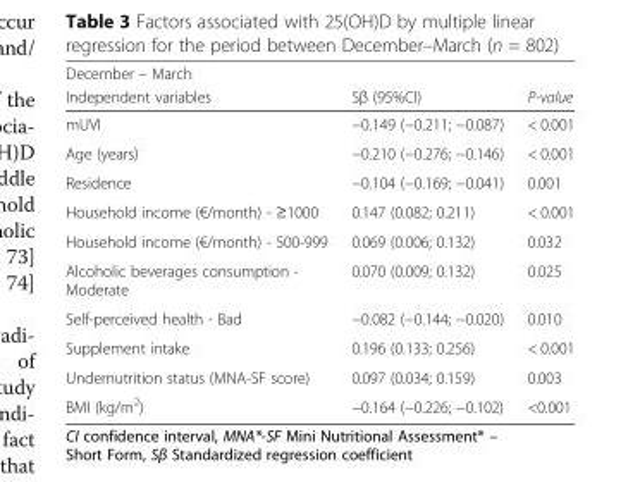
<table><thead><tr><td colspan="3">December – March</td></tr><tr><td>Independent variables</td><td>Sβ (95%CI)</td><td>P-value</td></tr></thead><tbody><tr><td>mUVI</td><td>−0.149 (−0.211; −0.087)</td><td>&lt; 0.001</td></tr><tr><td>Age (years)</td><td>−0.210 (−0.276; −0.146)</td><td>&lt; 0.001</td></tr><tr><td>Residence</td><td>−0.104 (−0.169; −0.041)</td><td>0.001</td></tr><tr><td>Household income (€/month) - ≥1000</td><td>0.147 (0.082; 0.211)</td><td>&lt; 0.001</td></tr><tr><td>Household income (€/month) - 500-999</td><td>0.069 (0.006; 0.132)</td><td>0.032</td></tr><tr><td>Alcoholic beverages consumption - Moderate</td><td>0.070 (0.009; 0.132)</td><td>0.025</td></tr><tr><td>Self-perceived health - Bad</td><td>−0.082 (−0.144; −0.020)</td><td>0.010</td></tr><tr><td>Supplement intake</td><td>0.196 (0.133; 0.256)</td><td>&lt; 0.001</td></tr><tr><td>Undernutrition status (MNA-SF score)</td><td>0.097 (0.034; 0.159)</td><td>0.003</td></tr><tr><td>BMI (kg/m<sup>2</sup>)</td><td>−0.164 (−0.226; −0.102)</td><td>&lt;0.001</td></tr></tbody></table>